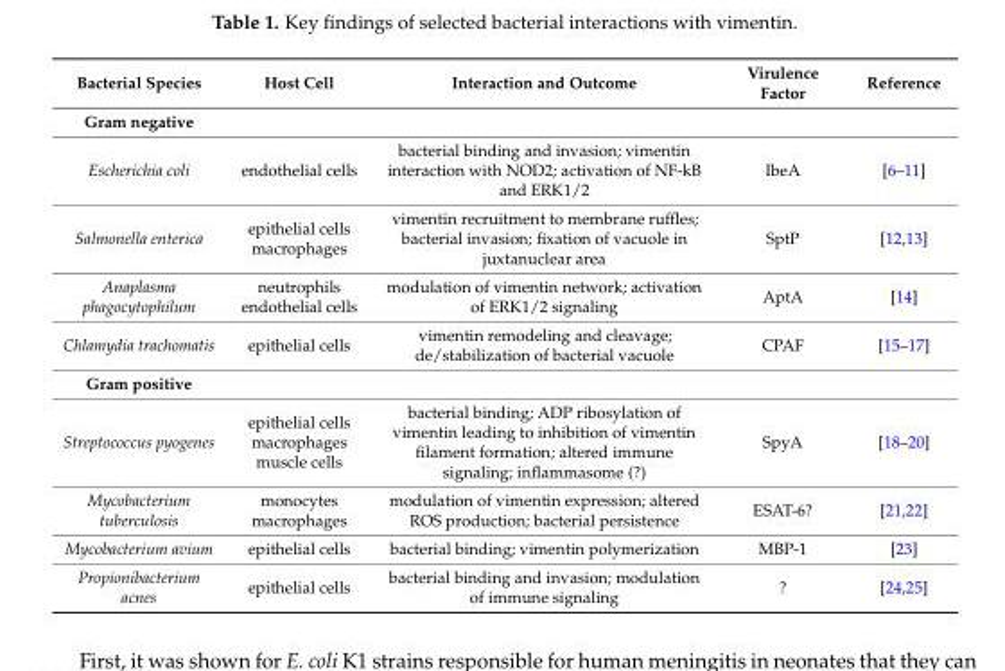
<table><thead><tr><td>Bacterial Species</td><td>Host Cell</td><td>Interaction and Outcome</td><td>Virulence Factor</td><td>Reference</td></tr></thead><tbody><tr><td colspan="5">Gram negative</td></tr><tr><td>Escherichia coli</td><td>endothelial cells</td><td>bacterial binding and invasion; vimentin interaction with NOD2; activation of NF-kB and ERK1/2</td><td>IbeA</td><td>[6–11]</td></tr><tr><td>Salmonella enterica</td><td>epithelial cells macrophages</td><td>vimentin recruitment to membrane ruffles; bacterial invasion; fixation of vacuole in juxtanuclear area</td><td>SptP</td><td>[12,13]</td></tr><tr><td>Anaplasma phagocytophilum</td><td>neutrophils endothelial cells</td><td>modulation of vimentin network; activation of ERK1/2 signaling</td><td>AptA</td><td>[14]</td></tr><tr><td>Chlamydia trachomatis</td><td>epithelial cells</td><td>vimentin remodeling and cleavage; de/stabilization of bacterial vacuole</td><td>CPAF</td><td>[15–17]</td></tr><tr><td colspan="5">Gram positive</td></tr><tr><td>Streptococcus pyogenes</td><td>epithelial cells macrophages muscle cells</td><td>bacterial binding; ADP ribosylation of vimentin leading to inhibition of vimentin filament formation; altered immune signaling; inflammasome (?)</td><td>SpyA</td><td>[18–20]</td></tr><tr><td>Mycobacterium tuberculosis</td><td>monocytes macrophages</td><td>modulation of vimentin expression; altered ROS production; bacterial persistence</td><td>ESAT-6?</td><td>[21,22]</td></tr><tr><td>Mycobacterium avium</td><td>epithelial cells</td><td>bacterial binding; vimentin polymerization</td><td>MBP-1</td><td>[23]</td></tr><tr><td>Propionibacterium acnes</td><td>epithelial cells</td><td>bacterial binding and invasion; modulation of immune signaling</td><td>?</td><td>[24,25]</td></tr></tbody></table>